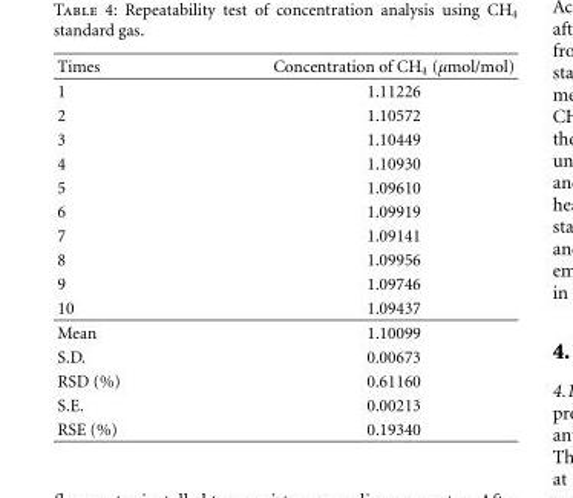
<table><thead><tr><td>Times</td><td>Concentration of CH<sub>4</sub> (µmol/mol)</td></tr></thead><tbody><tr><td>1</td><td>1.11226</td></tr><tr><td>2</td><td>1.10572</td></tr><tr><td>3</td><td>1.10449</td></tr><tr><td>4</td><td>1.10930</td></tr><tr><td>5</td><td>1.09610</td></tr><tr><td>6</td><td>1.09919</td></tr><tr><td>7</td><td>1.09141</td></tr><tr><td>8</td><td>1.09956</td></tr><tr><td>9</td><td>1.09746</td></tr><tr><td>10</td><td>1.09437</td></tr><tr><td>Mean</td><td>1.10099</td></tr><tr><td>S.D.</td><td>0.00673</td></tr><tr><td>RSD (%)</td><td>0.61160</td></tr><tr><td>S.E.</td><td>0.00213</td></tr><tr><td>RSE (%)</td><td>0.19340</td></tr></tbody></table>